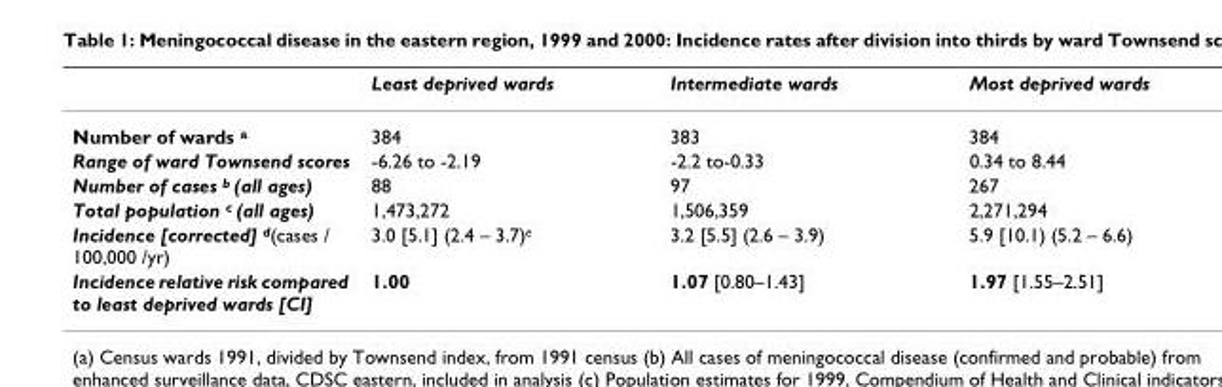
<table><thead><tr><td></td><td>Least deprived wards</td><td>Intermediate wards</td><td>Most deprived wards</td></tr></thead><tbody><tr><td>Number of wards <sup>a</sup></td><td>384</td><td>383</td><td>384</td></tr><tr><td>Range of ward Townsend scores</td><td>-6.26 to -2.19</td><td>-2.2 to-0.33</td><td>0.34 to 8.44</td></tr><tr><td>Number of cases b (all ages)</td><td>88</td><td>97</td><td>267</td></tr><tr><td>Total population c (all ages)</td><td>1,473,272</td><td>1,506,359</td><td>2,271,294</td></tr><tr><td>Incidence [corrected] d(cases / 100,000 /yr)</td><td>3.0 [5.1] (2.4 – 3.7)<sup>e</sup></td><td>3.2 [5.5] (2.6 – 3.9)</td><td>5.9 [10.1) (5.2 – 6.6)</td></tr><tr><td>Incidence relative risk compared to least deprived wards [CI]</td><td>1.00</td><td>1.07 [0.80–1.43]</td><td>1.97 [1.55–2.51]</td></tr></tbody></table>